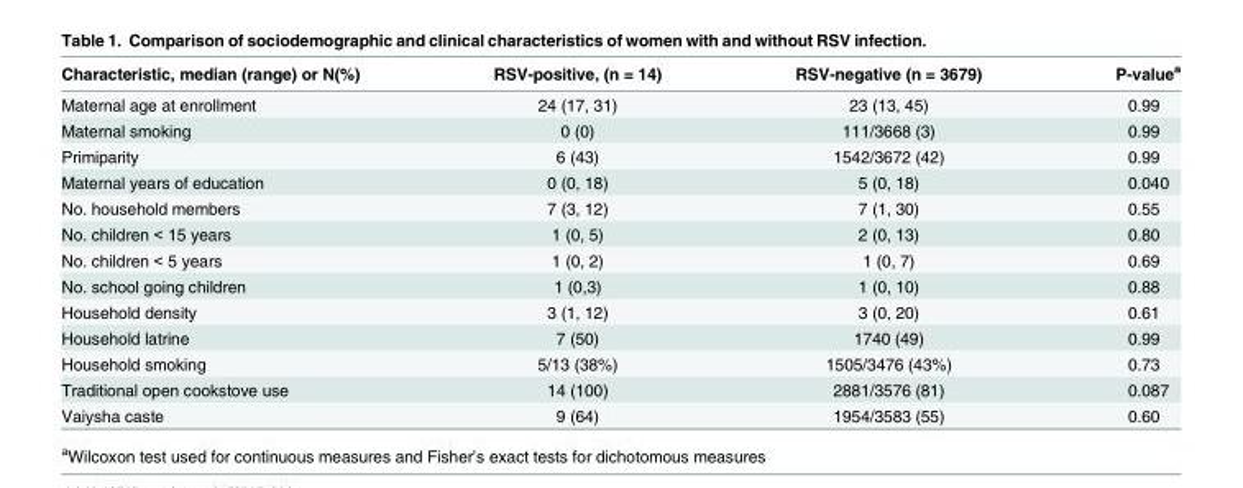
<table><thead><tr><td>Characteristic, median (range) or N(%)</td><td>RSV-positive, (n = 14)</td><td>RSV-negative (n = 3679)</td><td>P-value<sup>a</sup></td></tr></thead><tbody><tr><td>Maternal age at enrollment</td><td>24 (17, 31)</td><td>23 (13, 45)</td><td>0.99</td></tr><tr><td>Maternal smoking</td><td>0 (0)</td><td>111/3668 (3)</td><td>0.99</td></tr><tr><td>Primiparity</td><td>6 (43)</td><td>1542/3672 (42)</td><td>0.99</td></tr><tr><td>Maternal years of education</td><td>0 (0, 18)</td><td>5 (0, 18)</td><td>0.040</td></tr><tr><td>No. household members</td><td>7 (3, 12)</td><td>7 (1, 30)</td><td>0.55</td></tr><tr><td>No. children &lt; 15 years</td><td>1 (0, 5)</td><td>2 (0, 13)</td><td>0.80</td></tr><tr><td>No. children &lt; 5 years</td><td>1 (0, 2)</td><td>1 (0, 7)</td><td>0.69</td></tr><tr><td>No. school going children</td><td>1 (0,3)</td><td>1 (0, 10)</td><td>0.88</td></tr><tr><td>Household density</td><td>3 (1, 12)</td><td>3 (0, 20)</td><td>0.61</td></tr><tr><td>Household latrine</td><td>7 (50)</td><td>1740 (49)</td><td>0.99</td></tr><tr><td>Household smoking</td><td>5/13 (38%)</td><td>1505/3476 (43%)</td><td>0.73</td></tr><tr><td>Traditional open cookstove use</td><td>14 (100)</td><td>2881/3576 (81)</td><td>0.087</td></tr><tr><td>Vaiysha caste</td><td>9 (64)</td><td>1954/3583 (55)</td><td>0.60</td></tr></tbody></table>